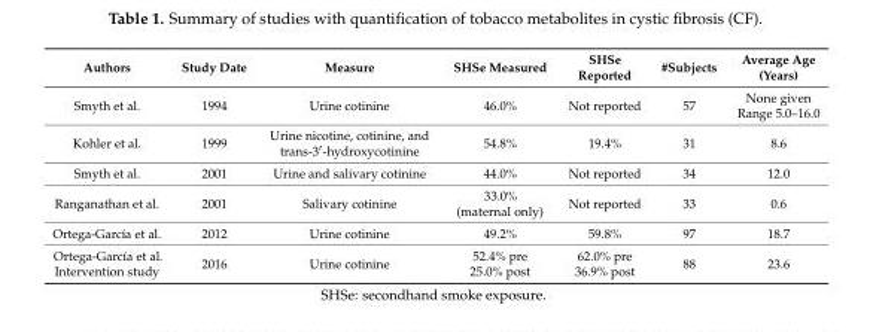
<table><thead><tr><td>Authors</td><td>Study Date</td><td>Measure</td><td>SHSe Measured</td><td>SHSe Reported</td><td>#Subjects</td><td>Average Age (Years)</td></tr></thead><tbody><tr><td>Smyth et al.</td><td>1994</td><td>Urine cotinine</td><td>46.0%</td><td>Not reported</td><td>57</td><td>None given Range 5.0–16.0</td></tr><tr><td>Kohler et al.</td><td>1999</td><td>Urine nicotine, cotinine, and trans-3′-hydroxycotinine</td><td>54.8%</td><td>19.4%</td><td>31</td><td>8.6</td></tr><tr><td>Smyth et al.</td><td>2001</td><td>Urine and salivary cotinine</td><td>44.0%</td><td>Not reported</td><td>34</td><td>12.0</td></tr><tr><td>Ranganathan et al.</td><td>2001</td><td>Salivary cotinine</td><td>33.0% (maternal only)</td><td>Not reported</td><td>33</td><td>0.6</td></tr><tr><td>Ortega-García et al.</td><td>2012</td><td>Urine cotinine</td><td>49.2%</td><td>59.8%</td><td>97</td><td>18.7</td></tr><tr><td>Ortega-García et al. Intervention study</td><td>2016</td><td>Urine cotinine</td><td>52.4% pre 25.0% post</td><td>62.0% pre 36.9% post</td><td>88</td><td>23.6</td></tr></tbody></table>